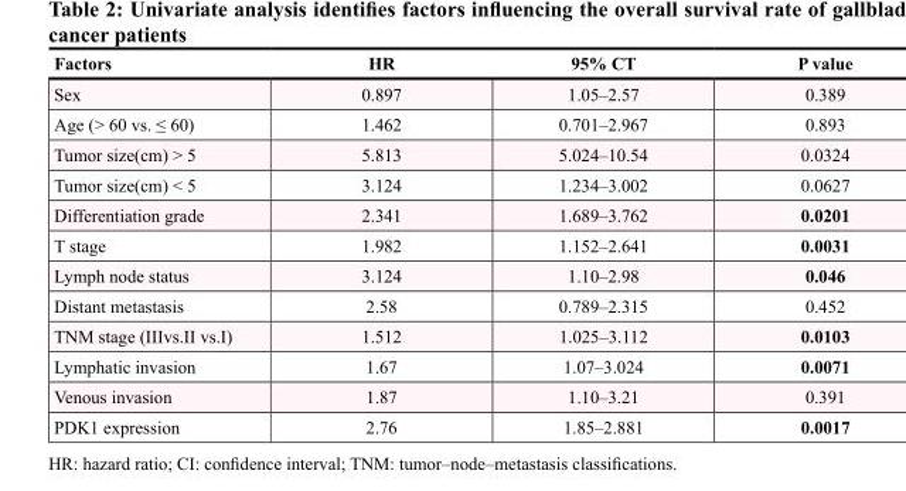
<table><thead><tr><td>Factors</td><td>HR</td><td>95% CT</td><td>P value</td></tr></thead><tbody><tr><td>Sex</td><td>0.897</td><td>1.05–2.57</td><td>0.389</td></tr><tr><td>Age (&gt; 60 vs. ≤ 60)</td><td>1.462</td><td>0.701–2.967</td><td>0.893</td></tr><tr><td>Tumor size(cm) &gt; 5</td><td>5.813</td><td>5.024–10.54</td><td>0.0324</td></tr><tr><td>Tumor size(cm) &lt; 5</td><td>3.124</td><td>1.234–3.002</td><td>0.0627</td></tr><tr><td>Differentiation grade</td><td>2.341</td><td>1.689–3.762</td><td>0.0201</td></tr><tr><td>T stage</td><td>1.982</td><td>1.152–2.641</td><td>0.0031</td></tr><tr><td>Lymph node status</td><td>3.124</td><td>1.10–2.98</td><td>0.046</td></tr><tr><td>Distant metastasis</td><td>2.58</td><td>0.789–2.315</td><td>0.452</td></tr><tr><td>TNM stage (IIIvs.II vs.I)</td><td>1.512</td><td>1.025–3.112</td><td>0.0103</td></tr><tr><td>Lymphatic invasion</td><td>1.67</td><td>1.07–3.024</td><td>0.0071</td></tr><tr><td>Venous invasion</td><td>1.87</td><td>1.10–3.21</td><td>0.391</td></tr><tr><td>PDK1 expression</td><td>2.76</td><td>1.85–2.881</td><td>0.0017</td></tr></tbody></table>